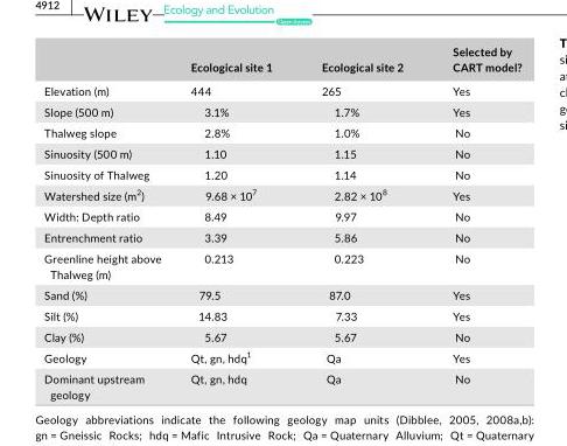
<table><thead><tr><td></td><td>Ecological site 1</td><td>Ecological site 2</td><td>Selected by CART model?</td></tr></thead><tbody><tr><td>Elevation (m)</td><td>444</td><td>265</td><td>Yes</td></tr><tr><td>Slope (500 m)</td><td>3.1%</td><td>1.7%</td><td>Yes</td></tr><tr><td>Thalweg slope</td><td>2.8%</td><td>1.0%</td><td>No</td></tr><tr><td>Sinuosity (500 m)</td><td>1.10</td><td>1.15</td><td>No</td></tr><tr><td>Sinuosity of Thalweg</td><td>1.20</td><td>1.14</td><td>No</td></tr><tr><td>Watershed size (m<sup>2</sup>)</td><td>9.68 × 10<sup>7</sup></td><td>2.82 × 10<sup>8</sup></td><td>Yes</td></tr><tr><td>Width: Depth ratio</td><td>8.49</td><td>9.97</td><td>No</td></tr><tr><td>Entrenchment ratio</td><td>3.39</td><td>5.86</td><td>No</td></tr><tr><td>Greenline height above Thalweg (m)</td><td>0.213</td><td>0.223</td><td>No</td></tr><tr><td>Sand (%)</td><td>79.5</td><td>87.0</td><td>Yes</td></tr><tr><td>Silt (%)</td><td>14.83</td><td>7.33</td><td>Yes</td></tr><tr><td>Clay (%)</td><td>5.67</td><td>5.67</td><td>No</td></tr><tr><td>Geology</td><td>Qt, gn, hdq<sup>1</sup></td><td>Qa</td><td>Yes</td></tr><tr><td>Dominant upstream geology</td><td>Qt, gn, hdq</td><td>Qa</td><td>No</td></tr></tbody></table>